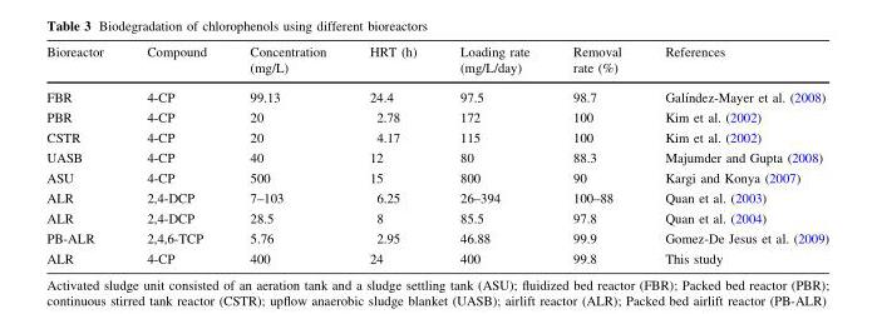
<table><thead><tr><td>Bioreactor</td><td>Compound</td><td>Concentration (mg/L)</td><td>HRT (h)</td><td>Loading rate (mg/L/day)</td><td>Removal rate (%)</td><td>References</td></tr></thead><tbody><tr><td>FBR</td><td>4-CP</td><td>99.13</td><td>24.4</td><td>97.5</td><td>98.7</td><td>Galı´ndez-Mayer et al. (2008)</td></tr><tr><td>PBR</td><td>4-CP</td><td>20</td><td>2.78</td><td>172</td><td>100</td><td>Kim et al. (2002)</td></tr><tr><td>CSTR</td><td>4-CP</td><td>20</td><td>4.17</td><td>115</td><td>100</td><td>Kim et al. (2002)</td></tr><tr><td>UASB</td><td>4-CP</td><td>40</td><td>12</td><td>80</td><td>88.3</td><td>Majumder and Gupta (2008)</td></tr><tr><td>ASU</td><td>4-CP</td><td>500</td><td>15</td><td>800</td><td>90</td><td>Kargi and Konya (2007)</td></tr><tr><td>ALR</td><td>2,4-DCP</td><td>7–103</td><td>6.25</td><td>26–394</td><td>100–88</td><td>Quan et al. (2003)</td></tr><tr><td>ALR</td><td>2,4-DCP</td><td>28.5</td><td>8</td><td>85.5</td><td>97.8</td><td>Quan et al. (2004)</td></tr><tr><td>PB-ALR</td><td>2,4,6-TCP</td><td>5.76</td><td>2.95</td><td>46.88</td><td>99.9</td><td>Gomez-De Jesus et al. (2009)</td></tr><tr><td>ALR</td><td>4-CP</td><td>400</td><td>24</td><td>400</td><td>99.8</td><td>This study</td></tr></tbody></table>